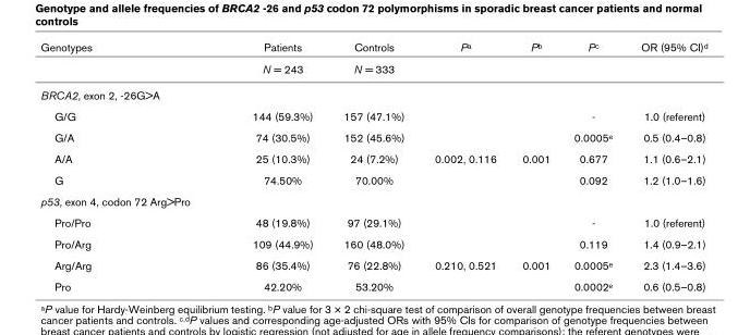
<table><thead><tr><td>Genotypes</td><td>Patients</td><td>Controls</td><td>P<sup>a</sup></td><td>P<sup>b</sup></td><td>P<sup>c</sup></td><td>OR (95% CI)<sup>d</sup></td></tr></thead><tbody><tr><td></td><td>N = 243</td><td>N = 333</td><td></td><td></td><td></td><td></td></tr><tr><td colspan="7">BRCA2, exon 2, -26G&gt;A</td></tr><tr><td>G/G</td><td>144 (59.3%)</td><td>157 (47.1%)</td><td></td><td></td><td>-</td><td>1.0 (referent)</td></tr><tr><td>G/A</td><td>74 (30.5%)</td><td>152 (45.6%)</td><td></td><td></td><td>0.0005<sup>e</sup></td><td>0.5 (0.4–0.8)</td></tr><tr><td>A/A</td><td>25 (10.3%)</td><td>24 (7.2%)</td><td>0.002, 0.116</td><td>0.001</td><td>0.677</td><td>1.1 (0.6–2.1)</td></tr><tr><td>G</td><td>74.50%</td><td>70.00%</td><td></td><td></td><td>0.092</td><td>1.2 (1.0–1.6)</td></tr><tr><td colspan="7">p53, exon 4, codon 72 Arg&gt;Pro</td></tr><tr><td>Pro/Pro</td><td>48 (19.8%)</td><td>97 (29.1%)</td><td></td><td></td><td>-</td><td>1.0 (referent)</td></tr><tr><td>Pro/Arg</td><td>109 (44.9%)</td><td>160 (48.0%)</td><td></td><td></td><td>0.119</td><td>1.4 (0.9–2.1)</td></tr><tr><td>Arg/Arg</td><td>86 (35.4%)</td><td>76 (22.8%)</td><td>0.210, 0.521</td><td>0.001</td><td>0.0005<sup>e</sup></td><td>2.3 (1.4–3.6)</td></tr><tr><td>Pro</td><td>42.20%</td><td>53.20%</td><td></td><td></td><td>0.0002<sup>e</sup></td><td>0.6 (0.5–0.8)</td></tr></tbody></table>